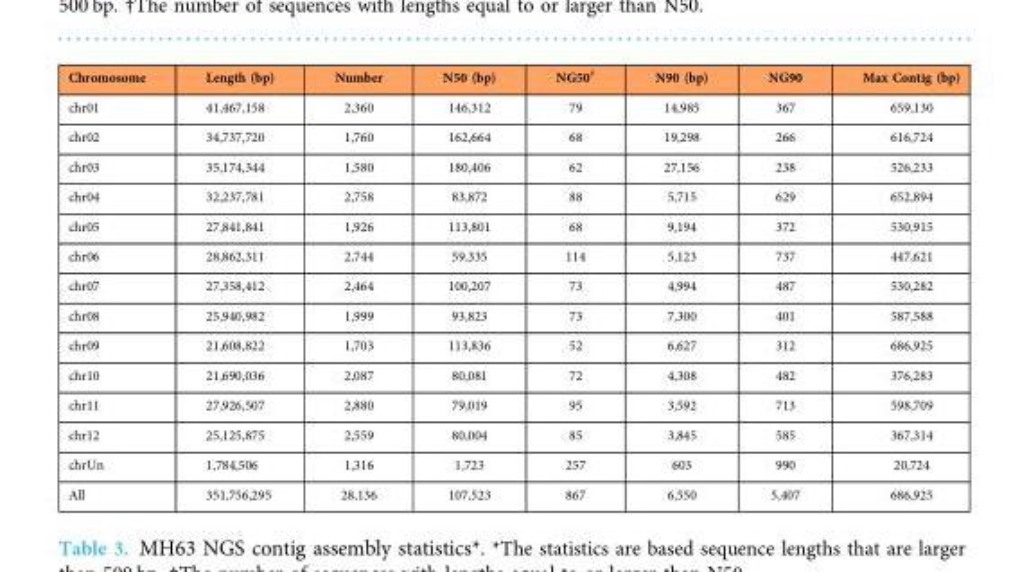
<table><thead><tr><td>Chromosome</td><td>Length (bp)</td><td>Number</td><td>N50 (bp)</td><td>NG50†</td><td>N90 (bp)</td><td>NG90</td><td>Max Contig (bp)</td></tr></thead><tbody><tr><td>chr01</td><td>41,467,158</td><td>2,360</td><td>146,312</td><td>79</td><td>14,985</td><td>367</td><td>659,130</td></tr><tr><td>chr02</td><td>34,737,720</td><td>1,760</td><td>162,664</td><td>68</td><td>19,298</td><td>266</td><td>616,724</td></tr><tr><td>chr03</td><td>35,174,344</td><td>1,580</td><td>180,406</td><td>62</td><td>27,156</td><td>238</td><td>526,233</td></tr><tr><td>chr04</td><td>32,237,781</td><td>2,758</td><td>83,872</td><td>88</td><td>5,715</td><td>629</td><td>652,894</td></tr><tr><td>chr05</td><td>27,841,841</td><td>1,926</td><td>113,801</td><td>68</td><td>9,194</td><td>372</td><td>530,915</td></tr><tr><td>chr06</td><td>28,862,311</td><td>2,744</td><td>59,335</td><td>114</td><td>5,123</td><td>737</td><td>447,621</td></tr><tr><td>chr07</td><td>27,358,412</td><td>2,464</td><td>100,207</td><td>73</td><td>4,994</td><td>487</td><td>530,282</td></tr><tr><td>chr08</td><td>25,940,982</td><td>1,999</td><td>93,823</td><td>73</td><td>7,300</td><td>401</td><td>587,588</td></tr><tr><td>chr09</td><td>21,608,822</td><td>1,703</td><td>113,836</td><td>52</td><td>6,627</td><td>312</td><td>686,925</td></tr><tr><td>chr10</td><td>21,690,036</td><td>2,087</td><td>80,081</td><td>72</td><td>4,308</td><td>482</td><td>376,283</td></tr><tr><td>chr11</td><td>27,926,507</td><td>2,880</td><td>79,019</td><td>95</td><td>3,592</td><td>713</td><td>598,709</td></tr><tr><td>chr12</td><td>25,125,875</td><td>2,559</td><td>80,004</td><td>85</td><td>3,845</td><td>585</td><td>367,314</td></tr><tr><td>chrUn</td><td>1,784,506</td><td>1,316</td><td>1,723</td><td>257</td><td>603</td><td>990</td><td>20,724</td></tr><tr><td>All</td><td>351,756,295</td><td>28,136</td><td>107,523</td><td>867</td><td>6,550</td><td>5,407</td><td>686,925</td></tr></tbody></table>